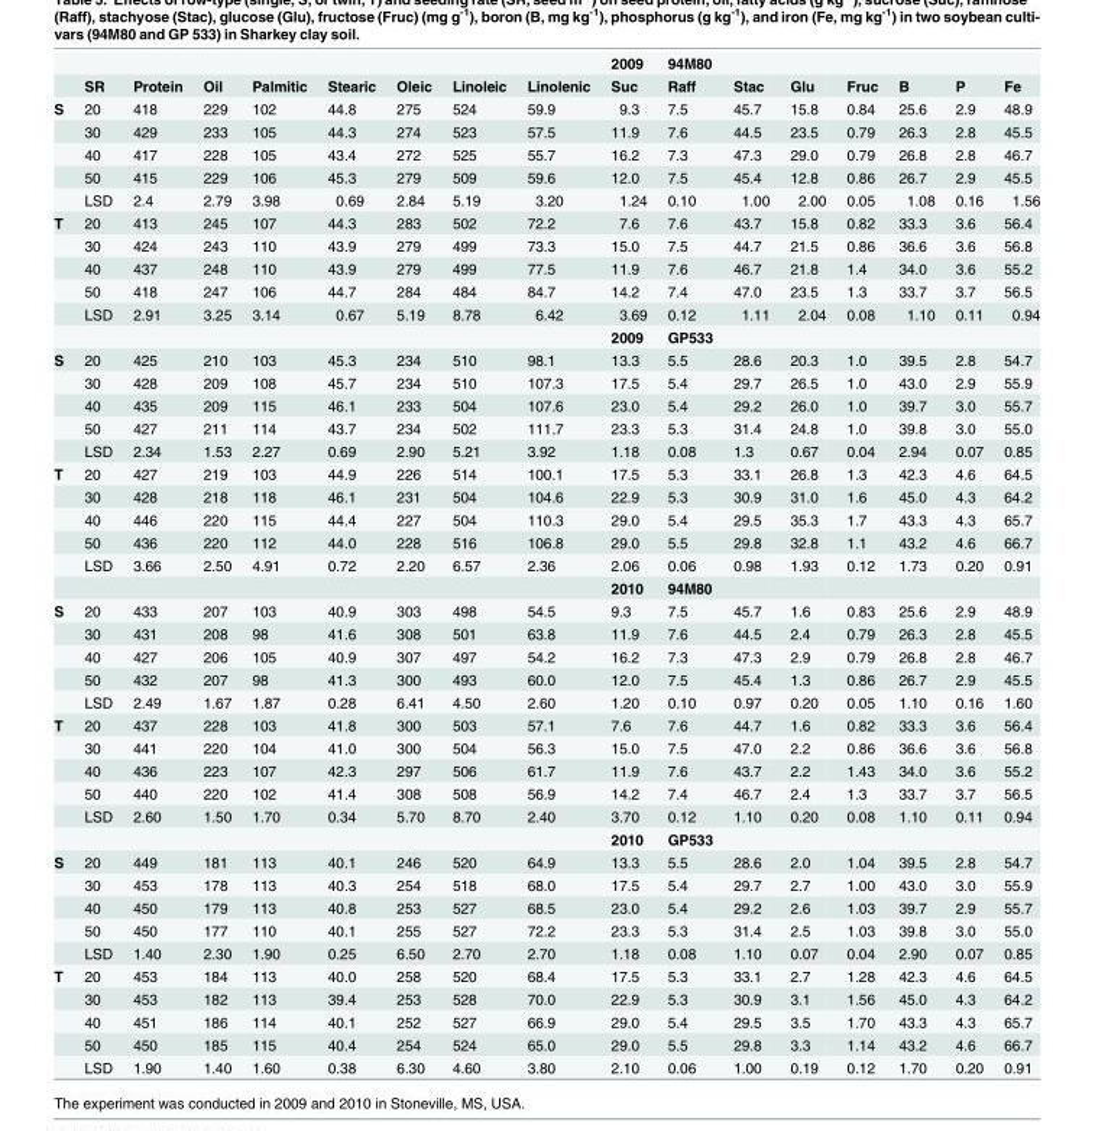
<table><thead><tr><td></td><td></td><td></td><td></td><td></td><td></td><td></td><td></td><td></td><td>2009</td><td>94M80</td><td></td><td></td><td></td><td></td><td></td><td></td></tr></thead><tbody><tr><td></td><td>SR</td><td>Protein</td><td>Oil</td><td>Palmitic</td><td>Stearic</td><td>Oleic</td><td>Linoleic</td><td>Linolenic</td><td>Suc</td><td>Raff</td><td>Stac</td><td>Glu</td><td>Fruc</td><td>B</td><td>P</td><td>Fe</td></tr><tr><td rowspan="5">S</td><td>20</td><td>418</td><td>229</td><td>102</td><td>44.8</td><td>275</td><td>524</td><td>59.9</td><td>9.3</td><td>7.5</td><td>45.7</td><td>15.8</td><td>0.84</td><td>25.6</td><td>2.9</td><td>48.9</td></tr><tr><td>30</td><td>429</td><td>233</td><td>105</td><td>44.3</td><td>274</td><td>523</td><td>57.5</td><td>11.9</td><td>7.6</td><td>44.5</td><td>23.5</td><td>0.79</td><td>26.3</td><td>2.8</td><td>45.5</td></tr><tr><td>40</td><td>417</td><td>228</td><td>105</td><td>43.4</td><td>272</td><td>525</td><td>55.7</td><td>16.2</td><td>7.3</td><td>47.3</td><td>29.0</td><td>0.79</td><td>26.8</td><td>2.8</td><td>46.7</td></tr><tr><td>50</td><td>415</td><td>229</td><td>106</td><td>45.3</td><td>279</td><td>509</td><td>59.6</td><td>12.0</td><td>7.5</td><td>45.4</td><td>12.8</td><td>0.86</td><td>26.7</td><td>2.9</td><td>45.5</td></tr><tr><td>LSD</td><td>2.4</td><td>2.79</td><td>3.98</td><td>0.69</td><td>2.84</td><td>5.19</td><td>3.20</td><td>1.24</td><td>0.10</td><td>1.00</td><td>2.00</td><td>0.05</td><td>1.08</td><td>0.16</td><td>1.56</td></tr><tr><td rowspan="6">T</td><td>20</td><td>413</td><td>245</td><td>107</td><td>44.3</td><td>283</td><td>502</td><td>72.2</td><td>7.6</td><td>7.6</td><td>43.7</td><td>15.8</td><td>0.82</td><td>33.3</td><td>3.6</td><td>56.4</td></tr><tr><td>30</td><td>424</td><td>243</td><td>110</td><td>43.9</td><td>279</td><td>499</td><td>73.3</td><td>15.0</td><td>7.5</td><td>44.7</td><td>21.5</td><td>0.86</td><td>36.6</td><td>3.6</td><td>56.8</td></tr><tr><td>40</td><td>437</td><td>248</td><td>110</td><td>43.9</td><td>279</td><td>499</td><td>77.5</td><td>11.9</td><td>7.6</td><td>46.7</td><td>21.8</td><td>1.4</td><td>34.0</td><td>3.6</td><td>55.2</td></tr><tr><td>50</td><td>418</td><td>247</td><td>106</td><td>44.7</td><td>284</td><td>484</td><td>84.7</td><td>14.2</td><td>7.4</td><td>47.0</td><td>23.5</td><td>1.3</td><td>33.7</td><td>3.7</td><td>56.5</td></tr><tr><td>LSD</td><td>2.91</td><td>3.25</td><td>3.14</td><td>0.67</td><td>5.19</td><td>8.78</td><td>6.42</td><td>3.69</td><td>0.12</td><td>1.11</td><td>2.04</td><td>0.08</td><td>1.10</td><td>0.11</td><td>0.94</td></tr><tr><td></td><td></td><td></td><td></td><td></td><td></td><td></td><td></td><td>2009</td><td>GP533</td><td></td><td></td><td></td><td></td><td></td><td></td></tr><tr><td rowspan="5">S</td><td>20</td><td>425</td><td>210</td><td>103</td><td>45.3</td><td>234</td><td>510</td><td>98.1</td><td>13.3</td><td>5.5</td><td>28.6</td><td>20.3</td><td>1.0</td><td>39.5</td><td>2.8</td><td>54.7</td></tr><tr><td>30</td><td>428</td><td>209</td><td>108</td><td>45.7</td><td>234</td><td>510</td><td>107.3</td><td>17.5</td><td>5.4</td><td>29.7</td><td>26.5</td><td>1.0</td><td>43.0</td><td>2.9</td><td>55.9</td></tr><tr><td>40</td><td>435</td><td>209</td><td>115</td><td>46.1</td><td>233</td><td>504</td><td>107.6</td><td>23.0</td><td>5.4</td><td>29.2</td><td>26.0</td><td>1.0</td><td>39.7</td><td>3.0</td><td>55.7</td></tr><tr><td>50</td><td>427</td><td>211</td><td>114</td><td>43.7</td><td>234</td><td>502</td><td>111.7</td><td>23.3</td><td>5.3</td><td>31.4</td><td>24.8</td><td>1.0</td><td>39.8</td><td>3.0</td><td>55.0</td></tr><tr><td>LSD</td><td>2.34</td><td>1.53</td><td>2.27</td><td>0.69</td><td>2.90</td><td>5.21</td><td>3.92</td><td>1.18</td><td>0.08</td><td>1.3</td><td>0.67</td><td>0.04</td><td>2.94</td><td>0.07</td><td>0.85</td></tr><tr><td rowspan="6">T</td><td>20</td><td>427</td><td>219</td><td>103</td><td>44.9</td><td>226</td><td>514</td><td>100.1</td><td>17.5</td><td>5.3</td><td>33.1</td><td>26.8</td><td>1.3</td><td>42.3</td><td>4.6</td><td>64.5</td></tr><tr><td>30</td><td>428</td><td>218</td><td>118</td><td>46.1</td><td>231</td><td>504</td><td>104.6</td><td>22.9</td><td>5.3</td><td>30.9</td><td>31.0</td><td>1.6</td><td>45.0</td><td>4.3</td><td>64.2</td></tr><tr><td>40</td><td>446</td><td>220</td><td>115</td><td>44.4</td><td>227</td><td>504</td><td>110.3</td><td>29.0</td><td>5.4</td><td>29.5</td><td>35.3</td><td>1.7</td><td>43.3</td><td>4.3</td><td>65.7</td></tr><tr><td>50</td><td>436</td><td>220</td><td>112</td><td>44.0</td><td>228</td><td>516</td><td>106.8</td><td>29.0</td><td>5.5</td><td>29.8</td><td>32.8</td><td>1.1</td><td>43.2</td><td>4.6</td><td>66.7</td></tr><tr><td>LSD</td><td>3.66</td><td>2.50</td><td>4.91</td><td>0.72</td><td>2.20</td><td>6.57</td><td>2.36</td><td>2.06</td><td>0.06</td><td>0.98</td><td>1.93</td><td>0.12</td><td>1.73</td><td>0.20</td><td>0.91</td></tr><tr><td></td><td></td><td></td><td></td><td></td><td></td><td></td><td></td><td>2010</td><td>94M80</td><td></td><td></td><td></td><td></td><td></td><td></td></tr><tr><td rowspan="5">S</td><td>20</td><td>433</td><td>207</td><td>103</td><td>40.9</td><td>303</td><td>498</td><td>54.5</td><td>9.3</td><td>7.5</td><td>45.7</td><td>1.6</td><td>0.83</td><td>25.6</td><td>2.9</td><td>48.9</td></tr><tr><td>30</td><td>431</td><td>208</td><td>98</td><td>41.6</td><td>308</td><td>501</td><td>63.8</td><td>11.9</td><td>7.6</td><td>44.5</td><td>2.4</td><td>0.79</td><td>26.3</td><td>2.8</td><td>45.5</td></tr><tr><td>40</td><td>427</td><td>206</td><td>105</td><td>40.9</td><td>307</td><td>497</td><td>54.2</td><td>16.2</td><td>7.3</td><td>47.3</td><td>2.9</td><td>0.79</td><td>26.8</td><td>2.8</td><td>46.7</td></tr><tr><td>50</td><td>432</td><td>207</td><td>98</td><td>41.3</td><td>300</td><td>493</td><td>60.0</td><td>12.0</td><td>7.5</td><td>45.4</td><td>1.3</td><td>0.86</td><td>26.7</td><td>2.9</td><td>45.5</td></tr><tr><td>LSD</td><td>2.49</td><td>1.67</td><td>1.87</td><td>0.28</td><td>6.41</td><td>4.50</td><td>2.60</td><td>1.20</td><td>0.10</td><td>0.97</td><td>0.20</td><td>0.05</td><td>1.10</td><td>0.16</td><td>1.60</td></tr><tr><td rowspan="6">T</td><td>20</td><td>437</td><td>228</td><td>103</td><td>41.8</td><td>300</td><td>503</td><td>57.1</td><td>7.6</td><td>7.6</td><td>44.7</td><td>1.6</td><td>0.82</td><td>33.3</td><td>3.6</td><td>56.4</td></tr><tr><td>30</td><td>441</td><td>220</td><td>104</td><td>41.0</td><td>300</td><td>504</td><td>56.3</td><td>15.0</td><td>7.5</td><td>47.0</td><td>2.2</td><td>0.86</td><td>36.6</td><td>3.6</td><td>56.8</td></tr><tr><td>40</td><td>436</td><td>223</td><td>107</td><td>42.3</td><td>297</td><td>506</td><td>61.7</td><td>11.9</td><td>7.6</td><td>43.7</td><td>2.2</td><td>1.43</td><td>34.0</td><td>3.6</td><td>55.2</td></tr><tr><td>50</td><td>440</td><td>220</td><td>102</td><td>41.4</td><td>308</td><td>508</td><td>56.9</td><td>14.2</td><td>7.4</td><td>46.7</td><td>2.4</td><td>1.3</td><td>33.7</td><td>3.7</td><td>56.5</td></tr><tr><td>LSD</td><td>2.60</td><td>1.50</td><td>1.70</td><td>0.34</td><td>5.70</td><td>8.70</td><td>2.40</td><td>3.70</td><td>0.12</td><td>1.10</td><td>0.20</td><td>0.08</td><td>1.10</td><td>0.11</td><td>0.94</td></tr><tr><td></td><td></td><td></td><td></td><td></td><td></td><td></td><td></td><td>2010</td><td>GP533</td><td></td><td></td><td></td><td></td><td></td><td></td></tr><tr><td rowspan="5">S</td><td>20</td><td>449</td><td>181</td><td>113</td><td>40.1</td><td>246</td><td>520</td><td>64.9</td><td>13.3</td><td>5.5</td><td>28.6</td><td>2.0</td><td>1.04</td><td>39.5</td><td>2.8</td><td>54.7</td></tr><tr><td>30</td><td>453</td><td>178</td><td>113</td><td>40.3</td><td>254</td><td>518</td><td>68.0</td><td>17.5</td><td>5.4</td><td>29.7</td><td>2.7</td><td>1.00</td><td>43.0</td><td>3.0</td><td>55.9</td></tr><tr><td>40</td><td>450</td><td>179</td><td>113</td><td>40.8</td><td>253</td><td>527</td><td>68.5</td><td>23.0</td><td>5.4</td><td>29.2</td><td>2.6</td><td>1.03</td><td>39.7</td><td>2.9</td><td>55.7</td></tr><tr><td>50</td><td>450</td><td>177</td><td>110</td><td>40.1</td><td>255</td><td>527</td><td>72.2</td><td>23.3</td><td>5.3</td><td>31.4</td><td>2.5</td><td>1.03</td><td>39.8</td><td>3.0</td><td>55.0</td></tr><tr><td>LSD</td><td>1.40</td><td>2.30</td><td>1.90</td><td>0.25</td><td>6.50</td><td>2.70</td><td>2.70</td><td>1.18</td><td>0.08</td><td>1.10</td><td>0.07</td><td>0.04</td><td>2.90</td><td>0.07</td><td>0.85</td></tr><tr><td rowspan="5">T</td><td>20</td><td>453</td><td>184</td><td>113</td><td>40.0</td><td>258</td><td>520</td><td>68.4</td><td>17.5</td><td>5.3</td><td>33.1</td><td>2.7</td><td>1.28</td><td>42.3</td><td>4.6</td><td>64.5</td></tr><tr><td>30</td><td>453</td><td>182</td><td>113</td><td>39.4</td><td>253</td><td>528</td><td>70.0</td><td>22.9</td><td>5.3</td><td>30.9</td><td>3.1</td><td>1.56</td><td>45.0</td><td>4.3</td><td>64.2</td></tr><tr><td>40</td><td>451</td><td>186</td><td>114</td><td>40.1</td><td>252</td><td>527</td><td>66.9</td><td>29.0</td><td>5.4</td><td>29.5</td><td>3.5</td><td>1.70</td><td>43.3</td><td>4.3</td><td>65.7</td></tr><tr><td>50</td><td>450</td><td>185</td><td>115</td><td>40.4</td><td>254</td><td>524</td><td>65.0</td><td>29.0</td><td>5.5</td><td>29.8</td><td>3.3</td><td>1.14</td><td>43.2</td><td>4.6</td><td>66.7</td></tr><tr><td>LSD</td><td>1.90</td><td>1.40</td><td>1.60</td><td>0.38</td><td>6.30</td><td>4.60</td><td>3.80</td><td>2.10</td><td>0.06</td><td>1.00</td><td>0.19</td><td>0.12</td><td>1.70</td><td>0.20</td><td>0.91</td></tr></tbody></table>